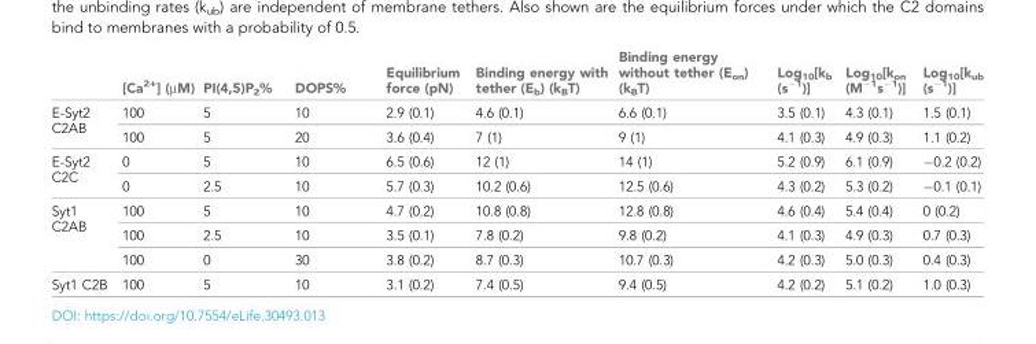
<table><thead><tr><td></td><td>[Ca<sup>2+</sup>] (µM)</td><td>PI(4,5)P<sub>2</sub>%</td><td>DOPS%</td><td>Equilibrium force (pN)</td><td>Binding energy with tether (E<sub>b</sub>) (k<sub>B</sub>T)</td><td>Binding energy without tether (E<sub>on</sub>) (k<sub>B</sub>T)</td><td>Log<sub>10</sub>[k<sub>b</sub> (s<sup>−1</sup>)]</td><td>Log<sub>10</sub>[k<sub>on</sub> (M<sup>−1</sup>s<sup>−1</sup>)]</td><td>Log<sub>10</sub>[k<sub>ub</sub> (s<sup>−1</sup>)]</td></tr></thead><tbody><tr><td rowspan="2">E-Syt2 C2AB</td><td>100</td><td>5</td><td>10</td><td>2.9 (0.1)</td><td>4.6 (0.1)</td><td>6.6 (0.1)</td><td>3.5 (0.1)</td><td>4.3 (0.1)</td><td>1.5 (0.1)</td></tr><tr><td>100</td><td>5</td><td>20</td><td>3.6 (0.4)</td><td>7 (1)</td><td>9 (1)</td><td>4.1 (0.3)</td><td>4.9 (0.3)</td><td>1.1 (0.2)</td></tr><tr><td rowspan="2">E-Syt2 C2C</td><td>0</td><td>5</td><td>10</td><td>6.5 (0.6)</td><td>12 (1)</td><td>14 (1)</td><td>5.2 (0.9)</td><td>6.1 (0.9)</td><td>−0.2 (0.2)</td></tr><tr><td>0</td><td>2.5</td><td>10</td><td>5.7 (0.3)</td><td>10.2 (0.6)</td><td>12.5 (0.6)</td><td>4.3 (0.2)</td><td>5.3 (0.2)</td><td>−0.1 (0.1)</td></tr><tr><td rowspan="3">Syt1 C2AB</td><td>100</td><td>5</td><td>10</td><td>4.7 (0.2)</td><td>10.8 (0.8)</td><td>12.8 (0.8)</td><td>4.6 (0.4)</td><td>5.4 (0.4)</td><td>0 (0.2)</td></tr><tr><td>100</td><td>2.5</td><td>10</td><td>3.5 (0.1)</td><td>7.8 (0.2)</td><td>9.8 (0.2)</td><td>4.1 (0.3)</td><td>4.9 (0.3)</td><td>0.7 (0.3)</td></tr><tr><td>100</td><td>0</td><td>30</td><td>3.8 (0.2)</td><td>8.7 (0.3)</td><td>10.7 (0.3)</td><td>4.2 (0.3)</td><td>5.0 (0.3)</td><td>0.4 (0.3)</td></tr><tr><td>Syt1 C2B</td><td>100</td><td>5</td><td>10</td><td>3.1 (0.2)</td><td>7.4 (0.5)</td><td>9.4 (0.5)</td><td>4.2 (0.2)</td><td>5.1 (0.2)</td><td>1.0 (0.3)</td></tr></tbody></table>